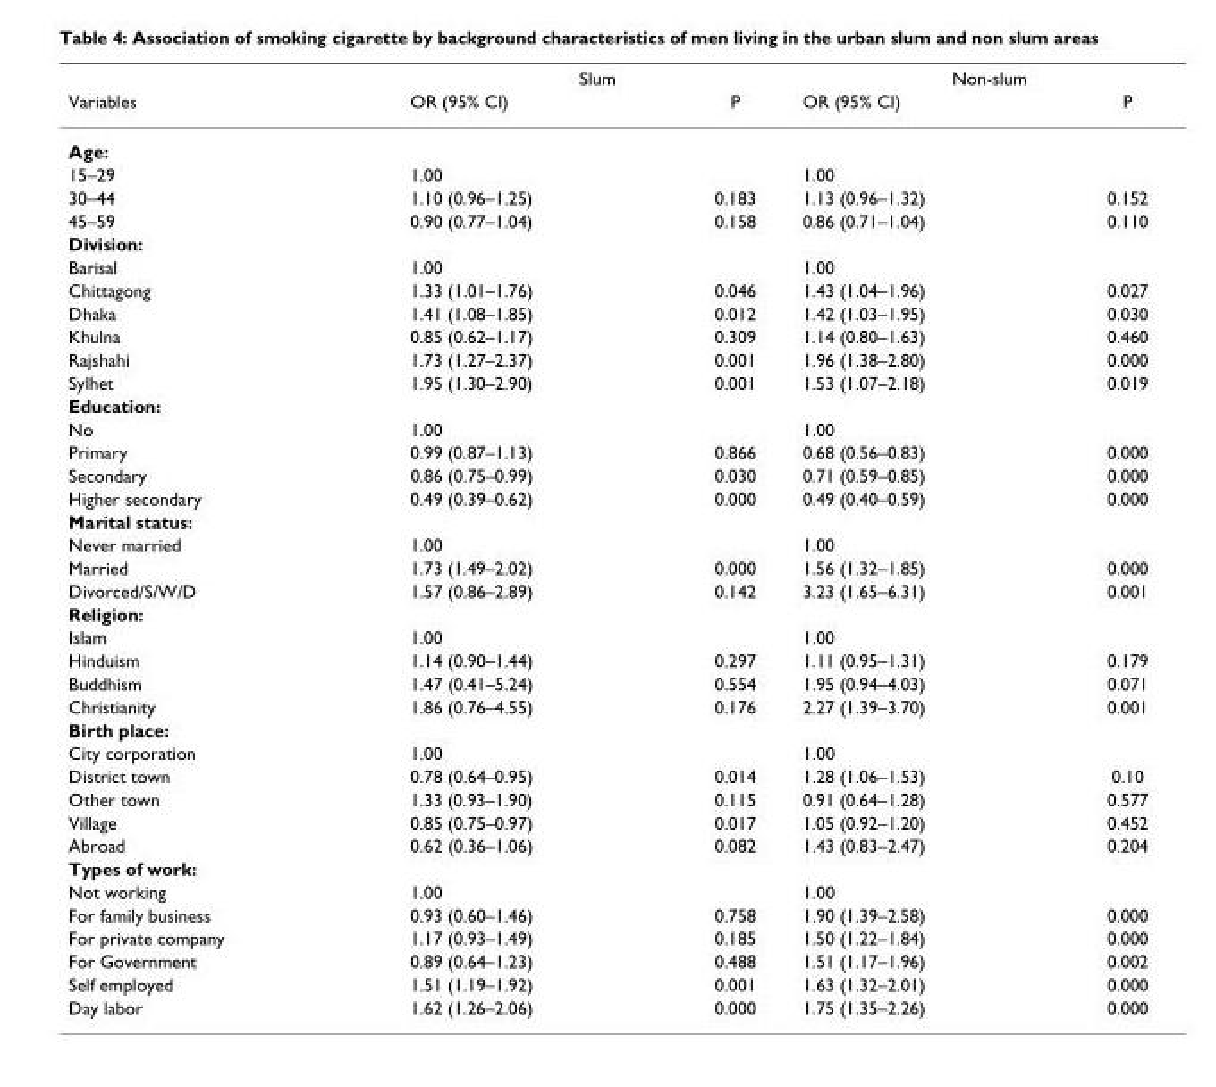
<table><thead><tr><td rowspan="2">Variables</td><td colspan="2">Slum</td><td colspan="2">Non-slum</td></tr><tr><td>OR (95% CI)</td><td>P</td><td>OR (95% CI)</td><td>P</td></tr></thead><tbody><tr><td colspan="5">Age:</td></tr><tr><td>15–29</td><td>1.00</td><td></td><td>1.00</td><td></td></tr><tr><td>30–44</td><td>1.10 (0.96–1.25)</td><td>0.183</td><td>1.13 (0.96–1.32)</td><td>0.152</td></tr><tr><td>45–59</td><td>0.90 (0.77–1.04)</td><td>0.158</td><td>0.86 (0.71–1.04)</td><td>0.110</td></tr><tr><td colspan="5">Division:</td></tr><tr><td>Barisal</td><td>1.00</td><td></td><td>1.00</td><td></td></tr><tr><td>Chittagong</td><td>1.33 (1.01–1.76)</td><td>0.046</td><td>1.43 (1.04–1.96)</td><td>0.027</td></tr><tr><td>Dhaka</td><td>1.41 (1.08–1.85)</td><td>0.012</td><td>1.42 (1.03–1.95)</td><td>0.030</td></tr><tr><td>Khulna</td><td>0.85 (0.62–1.17)</td><td>0.309</td><td>1.14 (0.80–1.63)</td><td>0.460</td></tr><tr><td>Rajshahi</td><td>1.73 (1.27–2.37)</td><td>0.001</td><td>1.96 (1.38–2.80)</td><td>0.000</td></tr><tr><td>Sylhet</td><td>1.95 (1.30–2.90)</td><td>0.001</td><td>1.53 (1.07–2.18)</td><td>0.019</td></tr><tr><td colspan="5">Education:</td></tr><tr><td>No</td><td>1.00</td><td></td><td>1.00</td><td></td></tr><tr><td>Primary</td><td>0.99 (0.87–1.13)</td><td>0.866</td><td>0.68 (0.56–0.83)</td><td>0.000</td></tr><tr><td>Secondary</td><td>0.86 (0.75–0.99)</td><td>0.030</td><td>0.71 (0.59–0.85)</td><td>0.000</td></tr><tr><td>Higher secondary</td><td>0.49 (0.39–0.62)</td><td>0.000</td><td>0.49 (0.40–0.59)</td><td>0.000</td></tr><tr><td colspan="5">Marital status:</td></tr><tr><td>Never married</td><td>1.00</td><td></td><td>1.00</td><td></td></tr><tr><td>Married</td><td>1.73 (1.49–2.02)</td><td>0.000</td><td>1.56 (1.32–1.85)</td><td>0.000</td></tr><tr><td>Divorced/S/W/D</td><td>1.57 (0.86–2.89)</td><td>0.142</td><td>3.23 (1.65–6.31)</td><td>0.001</td></tr><tr><td colspan="5">Religion:</td></tr><tr><td>Islam</td><td>1.00</td><td></td><td>1.00</td><td></td></tr><tr><td>Hinduism</td><td>1.14 (0.90–1.44)</td><td>0.297</td><td>1.11 (0.95–1.31)</td><td>0.179</td></tr><tr><td>Buddhism</td><td>1.47 (0.41–5.24)</td><td>0.554</td><td>1.95 (0.94–4.03)</td><td>0.071</td></tr><tr><td>Christianity</td><td>1.86 (0.76–4.55)</td><td>0.176</td><td>2.27 (1.39–3.70)</td><td>0.001</td></tr><tr><td colspan="5">Birth place:</td></tr><tr><td>City corporation</td><td>1.00</td><td></td><td>1.00</td><td></td></tr><tr><td>District town</td><td>0.78 (0.64–0.95)</td><td>0.014</td><td>1.28 (1.06–1.53)</td><td>0.10</td></tr><tr><td>Other town</td><td>1.33 (0.93–1.90)</td><td>0.115</td><td>0.91 (0.64–1.28)</td><td>0.577</td></tr><tr><td>Village</td><td>0.85 (0.75–0.97)</td><td>0.017</td><td>1.05 (0.92–1.20)</td><td>0.452</td></tr><tr><td>Abroad</td><td>0.62 (0.36–1.06)</td><td>0.082</td><td>1.43 (0.83–2.47)</td><td>0.204</td></tr><tr><td colspan="5">Types of work:</td></tr><tr><td>Not working</td><td>1.00</td><td></td><td>1.00</td><td></td></tr><tr><td>For family business</td><td>0.93 (0.60–1.46)</td><td>0.758</td><td>1.90 (1.39–2.58)</td><td>0.000</td></tr><tr><td>For private company</td><td>1.17 (0.93–1.49)</td><td>0.185</td><td>1.50 (1.22–1.84)</td><td>0.000</td></tr><tr><td>For Government</td><td>0.89 (0.64–1.23)</td><td>0.488</td><td>1.51 (1.17–1.96)</td><td>0.002</td></tr><tr><td>Self employed</td><td>1.51 (1.19–1.92)</td><td>0.001</td><td>1.63 (1.32–2.01)</td><td>0.000</td></tr><tr><td>Day labor</td><td>1.62 (1.26–2.06)</td><td>0.000</td><td>1.75 (1.35–2.26)</td><td>0.000</td></tr></tbody></table>